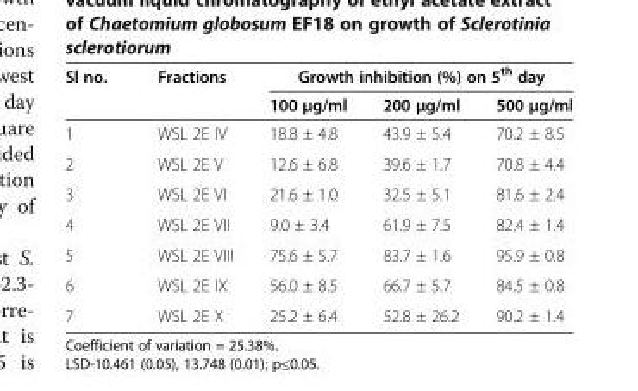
<table><thead><tr><td rowspan="2">Sl no.</td><td rowspan="2">Fractions</td><td colspan="3">Growth inhibition (%) on 5<sup>th</sup> day</td></tr><tr><td>100 μg/ml</td><td>200 μg/ml</td><td>500 μg/ml</td></tr></thead><tbody><tr><td>1</td><td>WSL 2E IV</td><td>18.8 ± 4.8</td><td>43.9 ± 5.4</td><td>70.2 ± 8.5</td></tr><tr><td>2</td><td>WSL 2E V</td><td>12.6 ± 6.8</td><td>39.6 ± 1.7</td><td>70.8 ± 4.4</td></tr><tr><td>3</td><td>WSL 2E VI</td><td>21.6 ± 1.0</td><td>32.5 ± 5.1</td><td>81.6 ± 2.4</td></tr><tr><td>4</td><td>WSL 2E VII</td><td>9.0 ± 3.4</td><td>61.9 ± 7.5</td><td>82.4 ± 1.4</td></tr><tr><td>5</td><td>WSL 2E VIII</td><td>75.6 ± 5.7</td><td>83.7 ± 1.6</td><td>95.9 ± 0.8</td></tr><tr><td>6</td><td>WSL 2E IX</td><td>56.0 ± 8.5</td><td>66.7 ± 5.7</td><td>84.5 ± 0.8</td></tr><tr><td>7</td><td>WSL 2E X</td><td>25.2 ± 6.4</td><td>52.8 ± 26.2</td><td>90.2 ± 1.4</td></tr></tbody></table>